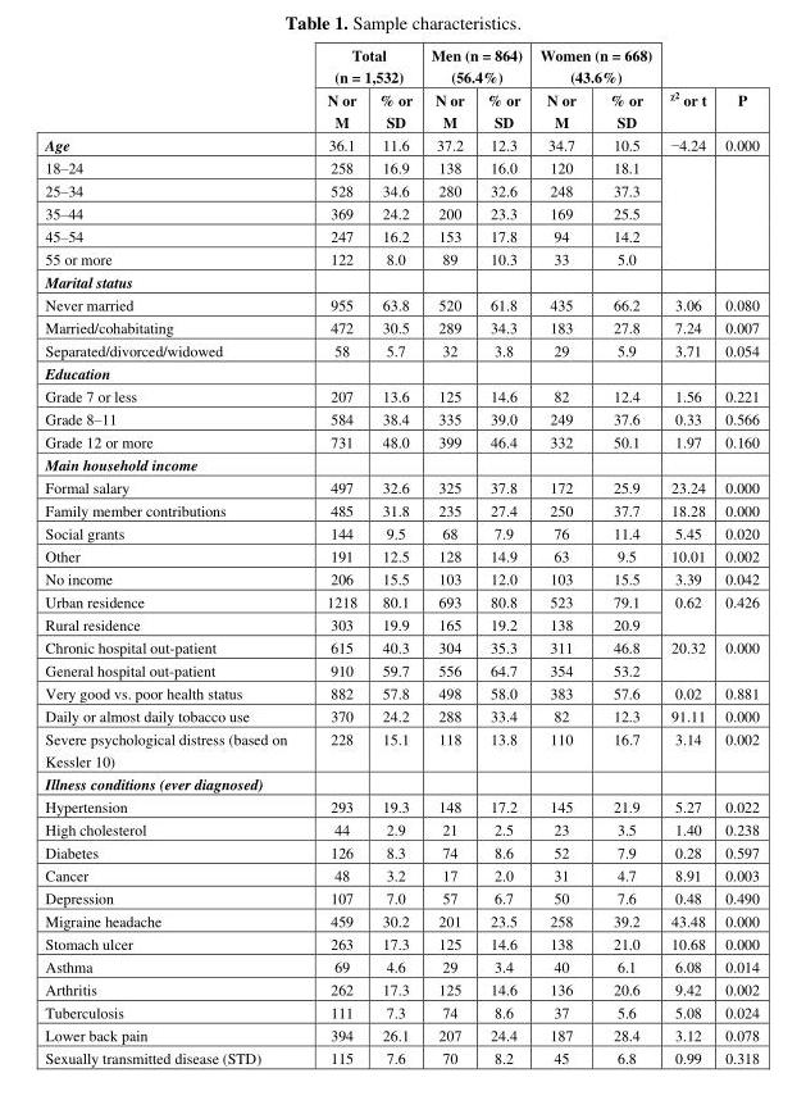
<table><thead><tr><td rowspan="2"></td><td colspan="2">Total (n = 1,532)</td><td colspan="2">Men (n = 864) (56.4%)</td><td colspan="2">Women (n = 668) (43.6%)</td><td rowspan="2">χ<sup>2</sup> or t</td><td rowspan="2">P</td></tr><tr><td>N or M</td><td>% or SD</td><td>N or M</td><td>% or SD</td><td>N or M</td><td>% or SD</td></tr></thead><tbody><tr><td>Age</td><td>36.1</td><td>11.6</td><td>37.2</td><td>12.3</td><td>34.7</td><td>10.5</td><td>−4.24</td><td>0.000</td></tr><tr><td>18–24</td><td>258</td><td>16.9</td><td>138</td><td>16.0</td><td>120</td><td>18.1</td><td rowspan="5"></td><td rowspan="5"></td></tr><tr><td>25–34</td><td>528</td><td>34.6</td><td>280</td><td>32.6</td><td>248</td><td>37.3</td></tr><tr><td>35–44</td><td>369</td><td>24.2</td><td>200</td><td>23.3</td><td>169</td><td>25.5</td></tr><tr><td>45–54</td><td>247</td><td>16.2</td><td>153</td><td>17.8</td><td>94</td><td>14.2</td></tr><tr><td>55 or more</td><td>122</td><td>8.0</td><td>89</td><td>10.3</td><td>33</td><td>5.0</td></tr><tr><td colspan="9">Marital status</td></tr><tr><td>Never married</td><td>955</td><td>63.8</td><td>520</td><td>61.8</td><td>435</td><td>66.2</td><td>3.06</td><td>0.080</td></tr><tr><td>Married/cohabitating</td><td>472</td><td>30.5</td><td>289</td><td>34.3</td><td>183</td><td>27.8</td><td>7.24</td><td>0.007</td></tr><tr><td>Separated/divorced/widowed</td><td>58</td><td>5.7</td><td>32</td><td>3.8</td><td>29</td><td>5.9</td><td>3.71</td><td>0.054</td></tr><tr><td colspan="9">Education</td></tr><tr><td>Grade 7 or less</td><td>207</td><td>13.6</td><td>125</td><td>14.6</td><td>82</td><td>12.4</td><td>1.56</td><td>0.221</td></tr><tr><td>Grade 8–11</td><td>584</td><td>38.4</td><td>335</td><td>39.0</td><td>249</td><td>37.6</td><td>0.33</td><td>0.566</td></tr><tr><td>Grade 12 or more</td><td>731</td><td>48.0</td><td>399</td><td>46.4</td><td>332</td><td>50.1</td><td>1.97</td><td>0.160</td></tr><tr><td colspan="9">Main household income</td></tr><tr><td>Formal salary</td><td>497</td><td>32.6</td><td>325</td><td>37.8</td><td>172</td><td>25.9</td><td>23.24</td><td>0.000</td></tr><tr><td>Family member contributions</td><td>485</td><td>31.8</td><td>235</td><td>27.4</td><td>250</td><td>37.7</td><td>18.28</td><td>0.000</td></tr><tr><td>Social grants</td><td>144</td><td>9.5</td><td>68</td><td>7.9</td><td>76</td><td>11.4</td><td>5.45</td><td>0.020</td></tr><tr><td>Other</td><td>191</td><td>12.5</td><td>128</td><td>14.9</td><td>63</td><td>9.5</td><td>10.01</td><td>0.002</td></tr><tr><td>No income</td><td>206</td><td>15.5</td><td>103</td><td>12.0</td><td>103</td><td>15.5</td><td>3.39</td><td>0.042</td></tr><tr><td>Urban residence</td><td>1218</td><td>80.1</td><td>693</td><td>80.8</td><td>523</td><td>79.1</td><td rowspan="2">0.62</td><td rowspan="2">0.426</td></tr><tr><td>Rural residence</td><td>303</td><td>19.9</td><td>165</td><td>19.2</td><td>138</td><td>20.9</td></tr><tr><td>Chronic hospital out-patient</td><td>615</td><td>40.3</td><td>304</td><td>35.3</td><td>311</td><td>46.8</td><td rowspan="2">20.32</td><td rowspan="2">0.000</td></tr><tr><td>General hospital out-patient</td><td>910</td><td>59.7</td><td>556</td><td>64.7</td><td>354</td><td>53.2</td></tr><tr><td>Very good vs. poor health status</td><td>882</td><td>57.8</td><td>498</td><td>58.0</td><td>383</td><td>57.6</td><td>0.02</td><td>0.881</td></tr><tr><td>Daily or almost daily tobacco use</td><td>370</td><td>24.2</td><td>288</td><td>33.4</td><td>82</td><td>12.3</td><td>91.11</td><td>0.000</td></tr><tr><td>Severe psychological distress (based on Kessler 10)</td><td>228</td><td>15.1</td><td>118</td><td>13.8</td><td>110</td><td>16.7</td><td>3.14</td><td>0.002</td></tr><tr><td colspan="9">Illness conditions (ever diagnosed)</td></tr><tr><td>Hypertension</td><td>293</td><td>19.3</td><td>148</td><td>17.2</td><td>145</td><td>21.9</td><td>5.27</td><td>0.022</td></tr><tr><td>High cholesterol</td><td>44</td><td>2.9</td><td>21</td><td>2.5</td><td>23</td><td>3.5</td><td>1.40</td><td>0.238</td></tr><tr><td>Diabetes</td><td>126</td><td>8.3</td><td>74</td><td>8.6</td><td>52</td><td>7.9</td><td>0.28</td><td>0.597</td></tr><tr><td>Cancer</td><td>48</td><td>3.2</td><td>17</td><td>2.0</td><td>31</td><td>4.7</td><td>8.91</td><td>0.003</td></tr><tr><td>Depression</td><td>107</td><td>7.0</td><td>57</td><td>6.7</td><td>50</td><td>7.6</td><td>0.48</td><td>0.490</td></tr><tr><td>Migraine headache</td><td>459</td><td>30.2</td><td>201</td><td>23.5</td><td>258</td><td>39.2</td><td>43.48</td><td>0.000</td></tr><tr><td>Stomach ulcer</td><td>263</td><td>17.3</td><td>125</td><td>14.6</td><td>138</td><td>21.0</td><td>10.68</td><td>0.000</td></tr><tr><td>Asthma</td><td>69</td><td>4.6</td><td>29</td><td>3.4</td><td>40</td><td>6.1</td><td>6.08</td><td>0.014</td></tr><tr><td>Arthritis</td><td>262</td><td>17.3</td><td>125</td><td>14.6</td><td>136</td><td>20.6</td><td>9.42</td><td>0.002</td></tr><tr><td>Tuberculosis</td><td>111</td><td>7.3</td><td>74</td><td>8.6</td><td>37</td><td>5.6</td><td>5.08</td><td>0.024</td></tr><tr><td>Lower back pain</td><td>394</td><td>26.1</td><td>207</td><td>24.4</td><td>187</td><td>28.4</td><td>3.12</td><td>0.078</td></tr><tr><td>Sexually transmitted disease (STD)</td><td>115</td><td>7.6</td><td>70</td><td>8.2</td><td>45</td><td>6.8</td><td>0.99</td><td>0.318</td></tr></tbody></table>